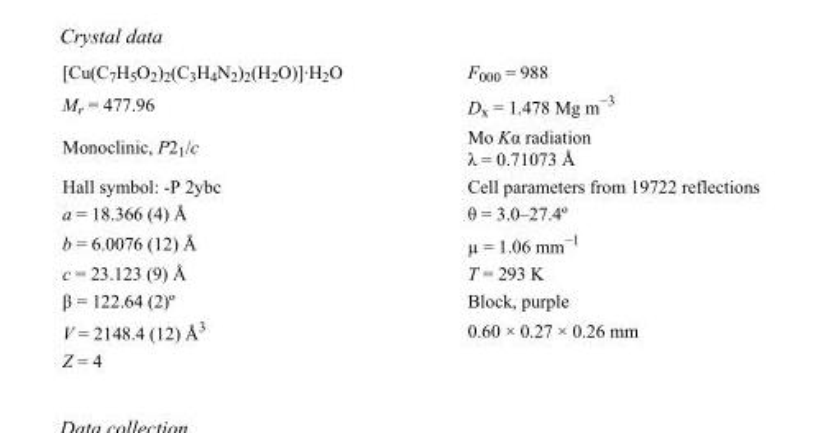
<table><tbody><tr><td>[Cu(C<sub>7</sub>H<sub>5</sub>O<sub>2</sub>)<sub>2</sub>(C<sub>3</sub>H<sub>4</sub>N<sub>2</sub>)<sub>2</sub>(H<sub>2</sub>O)]·H<sub>2</sub>O</td><td>F000 = 988</td></tr><tr><td>M<sub>r</sub> = 477.96</td><td>D<sub>x</sub> = 1.478 Mg m<sup>−3</sup></td></tr><tr><td>Monoclinic, P2<sub>1</sub>/c</td><td>Mo Kα radiation λ = 0.71073 Å</td></tr><tr><td>Hall symbol: -P 2ybc</td><td>Cell parameters from 19722 reflections</td></tr><tr><td>a = 18.366 (4) Å</td><td>θ = 3.0–27.4º</td></tr><tr><td>b = 6.0076 (12) Å</td><td>µ = 1.06 mm<sup>−1</sup></td></tr><tr><td>c = 23.123 (9) Å</td><td>T = 293 K</td></tr><tr><td>β = 122.64 (2)º</td><td>Block, purple</td></tr><tr><td>V = 2148.4 (12) Å<sup>3</sup></td><td>0.60 × 0.27 × 0.26 mm</td></tr><tr><td>Z = 4</td><td></td></tr></tbody></table>